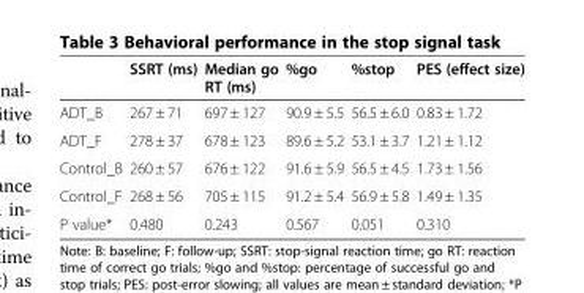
<table><thead><tr><td></td><td>SSRT (ms)</td><td>Median go RT (ms)</td><td>%go</td><td>%stop</td><td>PES (effect size)</td></tr></thead><tbody><tr><td>ADT_B</td><td>267 ± 71</td><td>697 ± 127</td><td>90.9 ± 5.5</td><td>56.5 ± 6.0</td><td>0.83 ± 1.72</td></tr><tr><td>ADT_F</td><td>278 ± 37</td><td>678 ± 123</td><td>89.6 ± 5.2</td><td>53.1 ± 3.7</td><td>1.21 ± 1.12</td></tr><tr><td>Control_B</td><td>260 ± 57</td><td>676 ± 122</td><td>91.6 ± 5.9</td><td>56.5 ± 4.5</td><td>1.73 ± 1.56</td></tr><tr><td>Control_F</td><td>268 ± 56</td><td>705 ± 115</td><td>91.2 ± 5.4</td><td>56.9 ± 5.8</td><td>1.49 ± 1.35</td></tr><tr><td>P value*</td><td>0.480</td><td>0.243</td><td>0.567</td><td>0.051</td><td>0.310</td></tr></tbody></table>